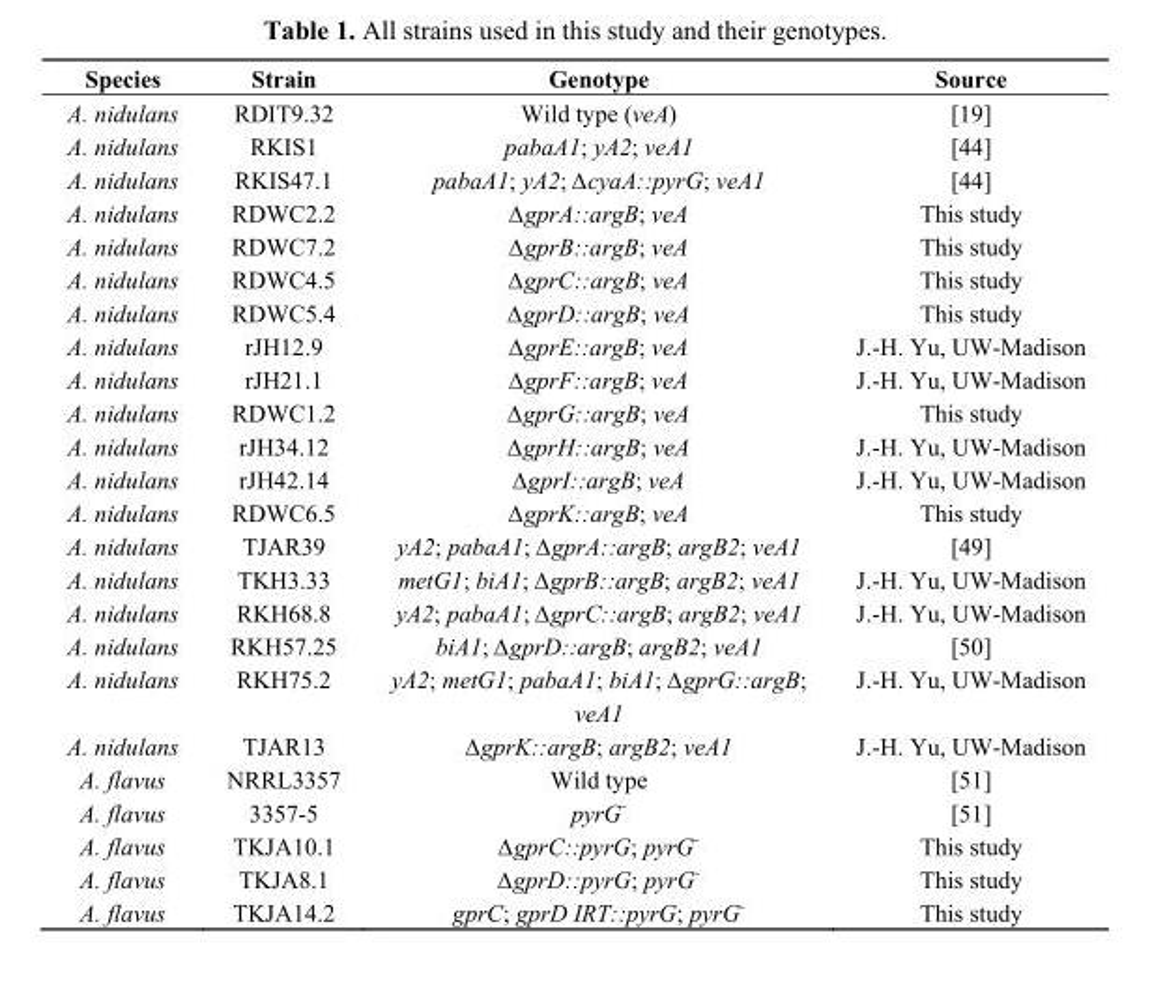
<table><thead><tr><td>Species</td><td>Strain</td><td>Genotype</td><td>Source</td></tr></thead><tbody><tr><td>A. nidulans</td><td>RDIT9.32</td><td>Wild type (veA)</td><td>[19]</td></tr><tr><td>A. nidulans</td><td>RKIS1</td><td>pabaA1; yA2; veA1</td><td>[44]</td></tr><tr><td>A. nidulans</td><td>RKIS47.1</td><td>pabaA1; yA2; ∆cyaA::pyrG; veA1</td><td>[44]</td></tr><tr><td>A. nidulans</td><td>RDWC2.2</td><td>∆gprA::argB; veA</td><td>This study</td></tr><tr><td>A. nidulans</td><td>RDWC7.2</td><td>∆gprB::argB; veA</td><td>This study</td></tr><tr><td>A. nidulans</td><td>RDWC4.5</td><td>∆gprC::argB; veA</td><td>This study</td></tr><tr><td>A. nidulans</td><td>RDWC5.4</td><td>∆gprD::argB; veA</td><td>This study</td></tr><tr><td>A. nidulans</td><td>rJH12.9</td><td>∆gprE::argB; veA</td><td>J.-H. Yu, UW-Madison</td></tr><tr><td>A. nidulans</td><td>rJH21.1</td><td>∆gprF::argB; veA</td><td>J.-H. Yu, UW-Madison</td></tr><tr><td>A. nidulans</td><td>RDWC1.2</td><td>∆gprG::argB; veA</td><td>This study</td></tr><tr><td>A. nidulans</td><td>rJH34.12</td><td>∆gprH::argB; veA</td><td>J.-H. Yu, UW-Madison</td></tr><tr><td>A. nidulans</td><td>rJH42.14</td><td>∆gprI::argB; veA</td><td>J.-H. Yu, UW-Madison</td></tr><tr><td>A. nidulans</td><td>RDWC6.5</td><td>∆gprK::argB; veA</td><td>This study</td></tr><tr><td>A. nidulans</td><td>TJAR39</td><td>yA2; pabaA1; ∆gprA::argB; argB2; veA1</td><td>[49]</td></tr><tr><td>A. nidulans</td><td>TKH3.33</td><td>metG1; biA1; ∆gprB::argB; argB2; veA1</td><td>J.-H. Yu, UW-Madison</td></tr><tr><td>A. nidulans</td><td>RKH68.8</td><td>yA2; pabaA1; ∆gprC::argB; argB2; veA1</td><td>J.-H. Yu, UW-Madison</td></tr><tr><td>A. nidulans</td><td>RKH57.25</td><td>biA1; ∆gprD::argB; argB2; veA1</td><td>[50]</td></tr><tr><td>A. nidulans</td><td>RKH75.2</td><td>yA2; metG1; pabaA1; biA1; ∆gprG::argB; veA1</td><td>J.-H. Yu, UW-Madison</td></tr><tr><td>A. nidulans</td><td>TJAR13</td><td>∆gprK::argB; argB2; veA1</td><td>J.-H. Yu, UW-Madison</td></tr><tr><td>A. flavus</td><td>NRRL3357</td><td>Wild type</td><td>[51]</td></tr><tr><td>A. flavus</td><td>3357-5</td><td>pyrG<sup>-</sup></td><td>[51]</td></tr><tr><td>A. flavus</td><td>TKJA10.1</td><td>∆gprC::pyrG; pyrG<sup>-</sup></td><td>This study</td></tr><tr><td>A. flavus</td><td>TKJA8.1</td><td>∆gprD::pyrG; pyrG<sup>-</sup></td><td>This study</td></tr><tr><td>A. flavus</td><td>TKJA14.2</td><td>gprC; gprD IRT::pyrG; pyrG<sup>-</sup></td><td>This study</td></tr></tbody></table>